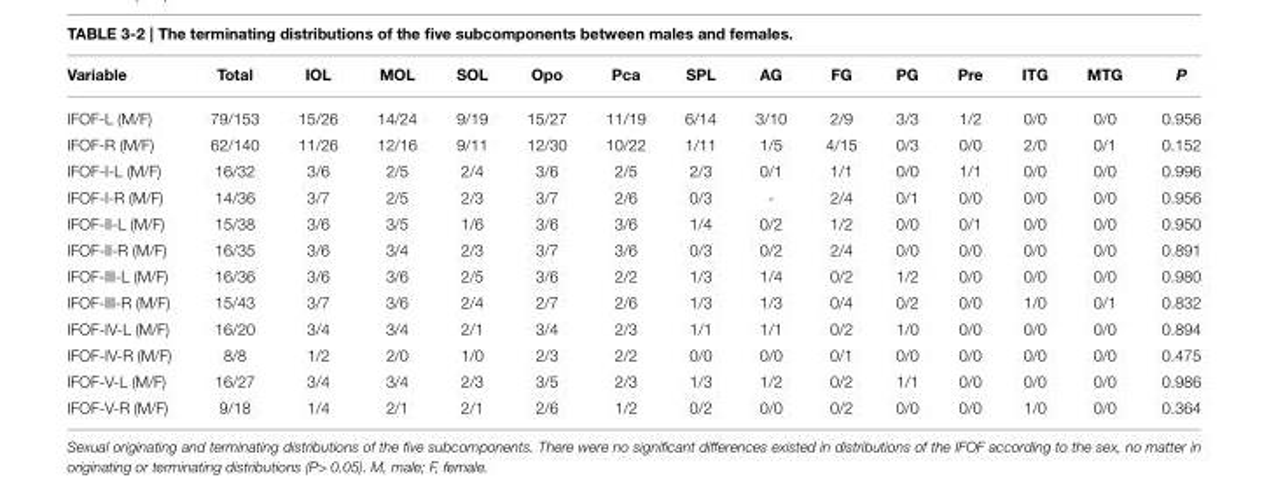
<table><thead><tr><td>Variable</td><td>Total</td><td>IOL</td><td>MOL</td><td>SOL</td><td>Opo</td><td>Pca</td><td>SPL</td><td>AG</td><td>FG</td><td>PG</td><td>Pre</td><td>ITG</td><td>MTG</td><td>P</td></tr></thead><tbody><tr><td>IFOF-L (M/F)</td><td>79/153</td><td>15/26</td><td>14/24</td><td>9/19</td><td>15/27</td><td>11/19</td><td>6/14</td><td>3/10</td><td>2/9</td><td>3/3</td><td>1/2</td><td>0/0</td><td>0/0</td><td>0.956</td></tr><tr><td>IFOF-R (M/F)</td><td>62/140</td><td>11/26</td><td>12/16</td><td>9/11</td><td>12/30</td><td>10/22</td><td>1/11</td><td>1/5</td><td>4/15</td><td>0/3</td><td>0/0</td><td>2/0</td><td>0/1</td><td>0.152</td></tr><tr><td>IFOF-I-L (M/F)</td><td>16/32</td><td>3/6</td><td>2/5</td><td>2/4</td><td>3/6</td><td>2/5</td><td>2/3</td><td>0/1</td><td>1/1</td><td>0/0</td><td>1/1</td><td>0/0</td><td>0/0</td><td>0.996</td></tr><tr><td>IFOF-I-R (M/F)</td><td>14/36</td><td>3/7</td><td>2/5</td><td>2/3</td><td>3/7</td><td>2/6</td><td>0/3</td><td>-</td><td>2/4</td><td>0/1</td><td>0/0</td><td>0/0</td><td>0/0</td><td>0.956</td></tr><tr><td>IFOF-II-L (M/F)</td><td>15/38</td><td>3/6</td><td>3/5</td><td>1/6</td><td>3/6</td><td>3/6</td><td>1/4</td><td>0/2</td><td>1/2</td><td>0/0</td><td>0/1</td><td>0/0</td><td>0/0</td><td>0.950</td></tr><tr><td>IFOF-II-R (M/F)</td><td>16/35</td><td>3/6</td><td>3/4</td><td>2/3</td><td>3/7</td><td>3/6</td><td>0/3</td><td>0/2</td><td>2/4</td><td>0/0</td><td>0/0</td><td>0/0</td><td>0/0</td><td>0.891</td></tr><tr><td>IFOF-III-L (M/F)</td><td>16/36</td><td>3/6</td><td>3/6</td><td>2/5</td><td>3/6</td><td>2/2</td><td>1/3</td><td>1/4</td><td>0/2</td><td>1/2</td><td>0/0</td><td>0/0</td><td>0/0</td><td>0.980</td></tr><tr><td>IFOF-III-R (M/F)</td><td>15/43</td><td>3/7</td><td>3/6</td><td>2/4</td><td>2/7</td><td>2/6</td><td>1/3</td><td>1/3</td><td>0/4</td><td>0/2</td><td>0/0</td><td>1/0</td><td>0/1</td><td>0.832</td></tr><tr><td>IFOF-IV-L (M/F)</td><td>16/20</td><td>3/4</td><td>3/4</td><td>2/1</td><td>3/4</td><td>2/3</td><td>1/1</td><td>1/1</td><td>0/2</td><td>1/0</td><td>0/0</td><td>0/0</td><td>0/0</td><td>0.894</td></tr><tr><td>IFOF-IV-R (M/F)</td><td>8/8</td><td>1/2</td><td>2/0</td><td>1/0</td><td>2/3</td><td>2/2</td><td>0/0</td><td>0/0</td><td>0/1</td><td>0/0</td><td>0/0</td><td>0/0</td><td>0/0</td><td>0.475</td></tr><tr><td>IFOF-V-L (M/F)</td><td>16/27</td><td>3/4</td><td>3/4</td><td>2/3</td><td>3/5</td><td>2/3</td><td>1/3</td><td>1/2</td><td>0/2</td><td>1/1</td><td>0/0</td><td>0/0</td><td>0/0</td><td>0.986</td></tr><tr><td>IFOF-V-R (M/F)</td><td>9/18</td><td>1/4</td><td>2/1</td><td>2/1</td><td>2/6</td><td>1/2</td><td>0/2</td><td>0/0</td><td>0/2</td><td>0/0</td><td>0/0</td><td>1/0</td><td>0/0</td><td>0.364</td></tr></tbody></table>